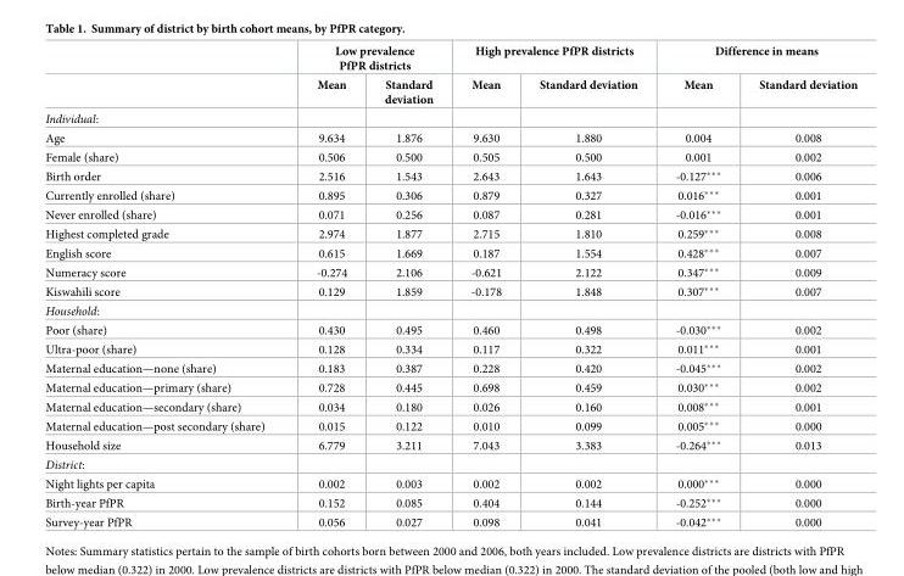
<table><thead><tr><td rowspan="2"></td><td colspan="2">Low prevalence PfPR districts</td><td colspan="2">High prevalence PfPR districts</td><td colspan="2">Difference in means</td></tr><tr><td>Mean</td><td>Standard deviation</td><td>Mean</td><td>Standard deviation</td><td>Mean</td><td>Standard deviation</td></tr></thead><tbody><tr><td colspan="7">Individual:</td></tr><tr><td>Age</td><td>9.634</td><td>1.876</td><td>9.630</td><td>1.880</td><td>0.004</td><td>0.008</td></tr><tr><td>Female (share)</td><td>0.506</td><td>0.500</td><td>0.505</td><td>0.500</td><td>0.001</td><td>0.002</td></tr><tr><td>Birth order</td><td>2.516</td><td>1.543</td><td>2.643</td><td>1.643</td><td>-0.127***</td><td>0.006</td></tr><tr><td>Currently enrolled (share)</td><td>0.895</td><td>0.306</td><td>0.879</td><td>0.327</td><td>0.016***</td><td>0.001</td></tr><tr><td>Never enrolled (share)</td><td>0.071</td><td>0.256</td><td>0.087</td><td>0.281</td><td>-0.016***</td><td>0.001</td></tr><tr><td>Highest completed grade</td><td>2.974</td><td>1.877</td><td>2.715</td><td>1.810</td><td>0.259***</td><td>0.008</td></tr><tr><td>English score</td><td>0.615</td><td>1.669</td><td>0.187</td><td>1.554</td><td>0.428***</td><td>0.007</td></tr><tr><td>Numeracy score</td><td>-0.274</td><td>2.106</td><td>-0.621</td><td>2.122</td><td>0.347***</td><td>0.009</td></tr><tr><td>Kiswahili score</td><td>0.129</td><td>1.859</td><td>-0.178</td><td>1.848</td><td>0.307***</td><td>0.007</td></tr><tr><td colspan="7">Household:</td></tr><tr><td>Poor (share)</td><td>0.430</td><td>0.495</td><td>0.460</td><td>0.498</td><td>-0.030***</td><td>0.002</td></tr><tr><td>Ultra-poor (share)</td><td>0.128</td><td>0.334</td><td>0.117</td><td>0.322</td><td>0.011***</td><td>0.001</td></tr><tr><td>Maternal education—none (share)</td><td>0.183</td><td>0.387</td><td>0.228</td><td>0.420</td><td>-0.045***</td><td>0.002</td></tr><tr><td>Maternal education—primary (share)</td><td>0.728</td><td>0.445</td><td>0.698</td><td>0.459</td><td>0.030***</td><td>0.002</td></tr><tr><td>Maternal education—secondary (share)</td><td>0.034</td><td>0.180</td><td>0.026</td><td>0.160</td><td>0.008***</td><td>0.001</td></tr><tr><td>Maternal education—post secondary (share)</td><td>0.015</td><td>0.122</td><td>0.010</td><td>0.099</td><td>0.005***</td><td>0.000</td></tr><tr><td>Household size</td><td>6.779</td><td>3.211</td><td>7.043</td><td>3.383</td><td>-0.264***</td><td>0.013</td></tr><tr><td colspan="7">District:</td></tr><tr><td>Night lights per capita</td><td>0.002</td><td>0.003</td><td>0.002</td><td>0.002</td><td>0.000***</td><td>0.000</td></tr><tr><td>Birth-year PfPR</td><td>0.152</td><td>0.085</td><td>0.404</td><td>0.144</td><td>-0.252***</td><td>0.000</td></tr><tr><td>Survey-year PfPR</td><td>0.056</td><td>0.027</td><td>0.098</td><td>0.041</td><td>-0.042***</td><td>0.000</td></tr></tbody></table>